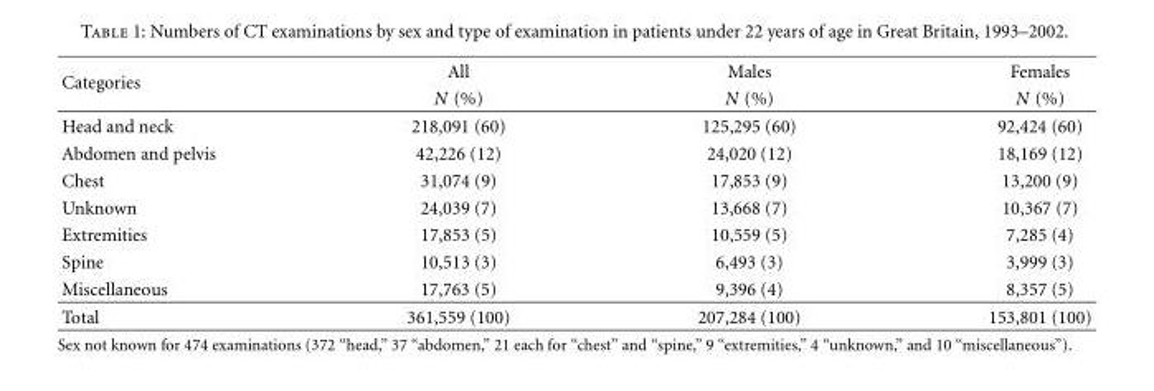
<table><thead><tr><td rowspan="2">Categories</td><td rowspan="2">All N (%)</td><td rowspan="2">Males N (%)</td><td rowspan="2">Females N (%)</td></tr><tr></tr></thead><tbody><tr><td>Head and neck</td><td>218,091 (60)</td><td>125,295 (60)</td><td>92,424 (60)</td></tr><tr><td>Abdomen and pelvis</td><td>42,226 (12)</td><td>24,020 (12)</td><td>18,169 (12)</td></tr><tr><td>Chest</td><td>31,074 (9)</td><td>17,853 (9)</td><td>13,200 (9)</td></tr><tr><td>Unknown</td><td>24,039 (7)</td><td>13,668 (7)</td><td>10,367 (7)</td></tr><tr><td>Extremities</td><td>17,853 (5)</td><td>10,559 (5)</td><td>7,285 (4)</td></tr><tr><td>Spine</td><td>10,513 (3)</td><td>6,493 (3)</td><td>3,999 (3)</td></tr><tr><td>Miscellaneous</td><td>17,763 (5)</td><td>9,396 (4)</td><td>8,357 (5)</td></tr><tr><td>Total</td><td>361,559 (100)</td><td>207,284 (100)</td><td>153,801 (100)</td></tr></tbody></table>